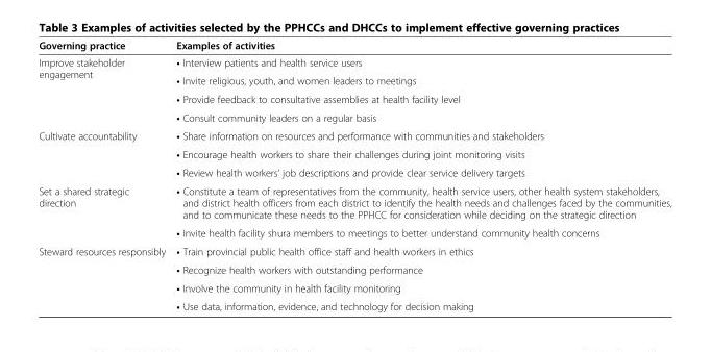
<table><thead><tr><td>Governing practice</td><td>Examples of activities</td></tr></thead><tbody><tr><td rowspan="4">Improve stakeholder engagement</td><td>• Interview patients and health service users</td></tr><tr><td>• Invite religious, youth, and women leaders to meetings</td></tr><tr><td>• Provide feedback to consultative assemblies at health facility level</td></tr><tr><td>• Consult community leaders on a regular basis</td></tr><tr><td rowspan="3">Cultivate accountability</td><td>• Share information on resources and performance with communities and stakeholders</td></tr><tr><td>• Encourage health workers to share their challenges during joint monitoring visits</td></tr><tr><td>• Review health workers’ job descriptions and provide clear service delivery targets</td></tr><tr><td rowspan="2">Set a shared strategic direction</td><td>• Constitute a team of representatives from the community, health service users, other health system stakeholders, and district health officers from each district to identify the health needs and challenges faced by the communities, and to communicate these needs to the PPHCC for consideration while deciding on the strategic direction</td></tr><tr><td>• Invite health facility shura members to meetings to better understand community health concerns</td></tr><tr><td rowspan="4">Steward resources responsibly</td><td>• Train provincial public health office staff and health workers in ethics</td></tr><tr><td>• Recognize health workers with outstanding performance</td></tr><tr><td>• Involve the community in health facility monitoring</td></tr><tr><td>• Use data, information, evidence, and technology for decision making</td></tr></tbody></table>